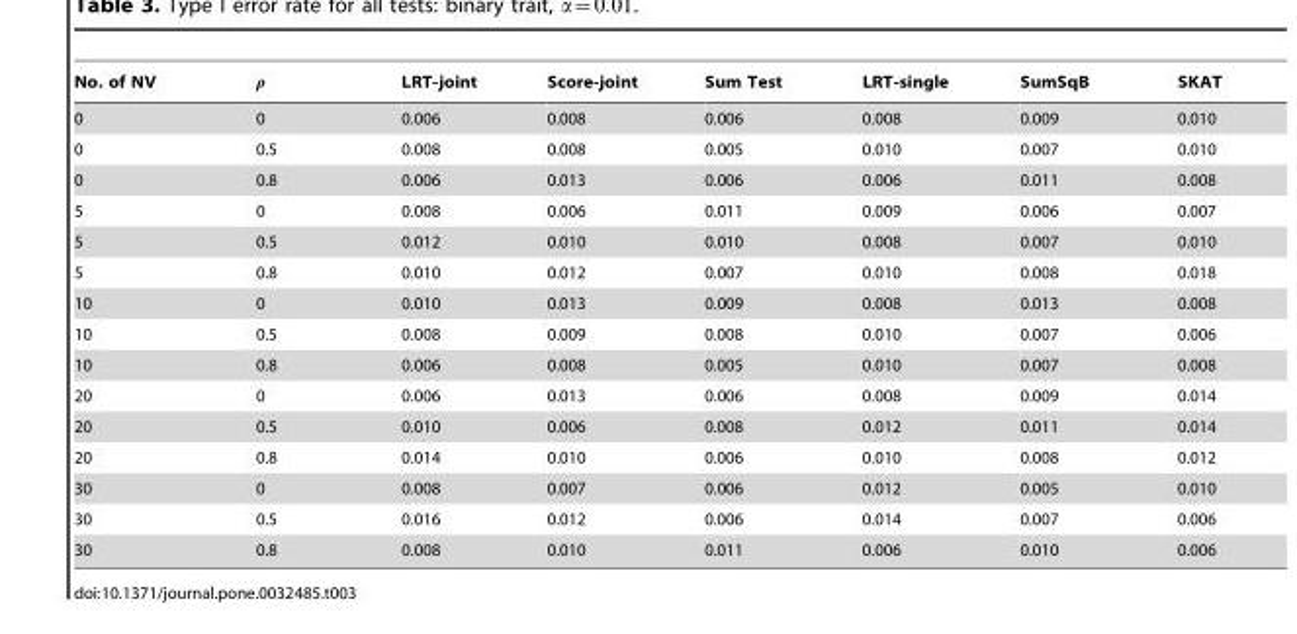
<table><thead><tr><td>No. of NV</td><td>r</td><td>LRT-joint</td><td>Score-joint</td><td>Sum Test</td><td>LRT-single</td><td>SumSqB</td><td>SKAT</td></tr></thead><tbody><tr><td>0</td><td>0</td><td>0.006</td><td>0.008</td><td>0.006</td><td>0.008</td><td>0.009</td><td>0.010</td></tr><tr><td>0</td><td>0.5</td><td>0.008</td><td>0.008</td><td>0.005</td><td>0.010</td><td>0.007</td><td>0.010</td></tr><tr><td>0</td><td>0.8</td><td>0.006</td><td>0.013</td><td>0.006</td><td>0.006</td><td>0.011</td><td>0.008</td></tr><tr><td>5</td><td>0</td><td>0.008</td><td>0.006</td><td>0.011</td><td>0.009</td><td>0.006</td><td>0.007</td></tr><tr><td>5</td><td>0.5</td><td>0.012</td><td>0.010</td><td>0.010</td><td>0.008</td><td>0.007</td><td>0.010</td></tr><tr><td>5</td><td>0.8</td><td>0.010</td><td>0.012</td><td>0.007</td><td>0.010</td><td>0.008</td><td>0.018</td></tr><tr><td>10</td><td>0</td><td>0.010</td><td>0.013</td><td>0.009</td><td>0.008</td><td>0.013</td><td>0.008</td></tr><tr><td>10</td><td>0.5</td><td>0.008</td><td>0.009</td><td>0.008</td><td>0.010</td><td>0.007</td><td>0.006</td></tr><tr><td>10</td><td>0.8</td><td>0.006</td><td>0.008</td><td>0.005</td><td>0.010</td><td>0.007</td><td>0.008</td></tr><tr><td>20</td><td>0</td><td>0.006</td><td>0.013</td><td>0.006</td><td>0.008</td><td>0.009</td><td>0.014</td></tr><tr><td>20</td><td>0.5</td><td>0.010</td><td>0.006</td><td>0.008</td><td>0.012</td><td>0.011</td><td>0.014</td></tr><tr><td>20</td><td>0.8</td><td>0.014</td><td>0.010</td><td>0.006</td><td>0.010</td><td>0.008</td><td>0.012</td></tr><tr><td>30</td><td>0</td><td>0.008</td><td>0.007</td><td>0.006</td><td>0.012</td><td>0.005</td><td>0.010</td></tr><tr><td>30</td><td>0.5</td><td>0.016</td><td>0.012</td><td>0.006</td><td>0.014</td><td>0.007</td><td>0.006</td></tr><tr><td>30</td><td>0.8</td><td>0.008</td><td>0.010</td><td>0.011</td><td>0.006</td><td>0.010</td><td>0.006</td></tr></tbody></table>